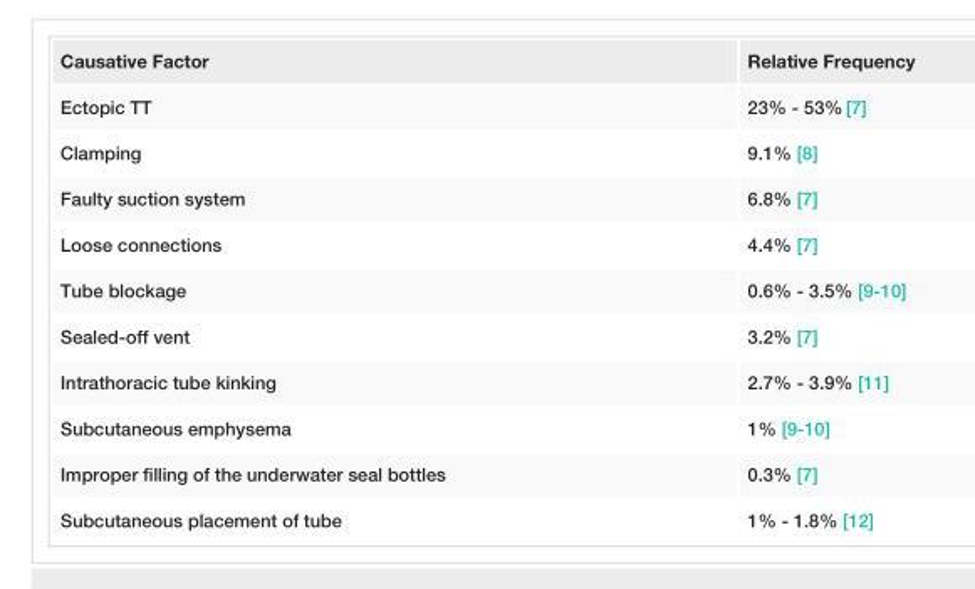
<table><tbody><tr><td>Causative Factor</td><td>Relative Frequency</td></tr><tr><td>Ectopic TT</td><td>23% - 53% [7]</td></tr><tr><td>Clamping</td><td>9.1% [8]</td></tr><tr><td>Faulty suction system</td><td>6.8% [7]</td></tr><tr><td>Loose connections</td><td>4.4% [7]</td></tr><tr><td>Tube blockage</td><td>0.6% - 3.5% [9-10]</td></tr><tr><td>Sealed-off vent</td><td>3.2% [7]</td></tr><tr><td>Intrathoracic tube kinking</td><td>2.7% - 3.9% [11]</td></tr><tr><td>Subcutaneous emphysema</td><td>1% [9-10]</td></tr><tr><td>Improper filling of the underwater seal bottles</td><td>0.3% [7]</td></tr><tr><td>Subcutaneous placement of tube</td><td>1% - 1.8% [12]</td></tr></tbody></table>